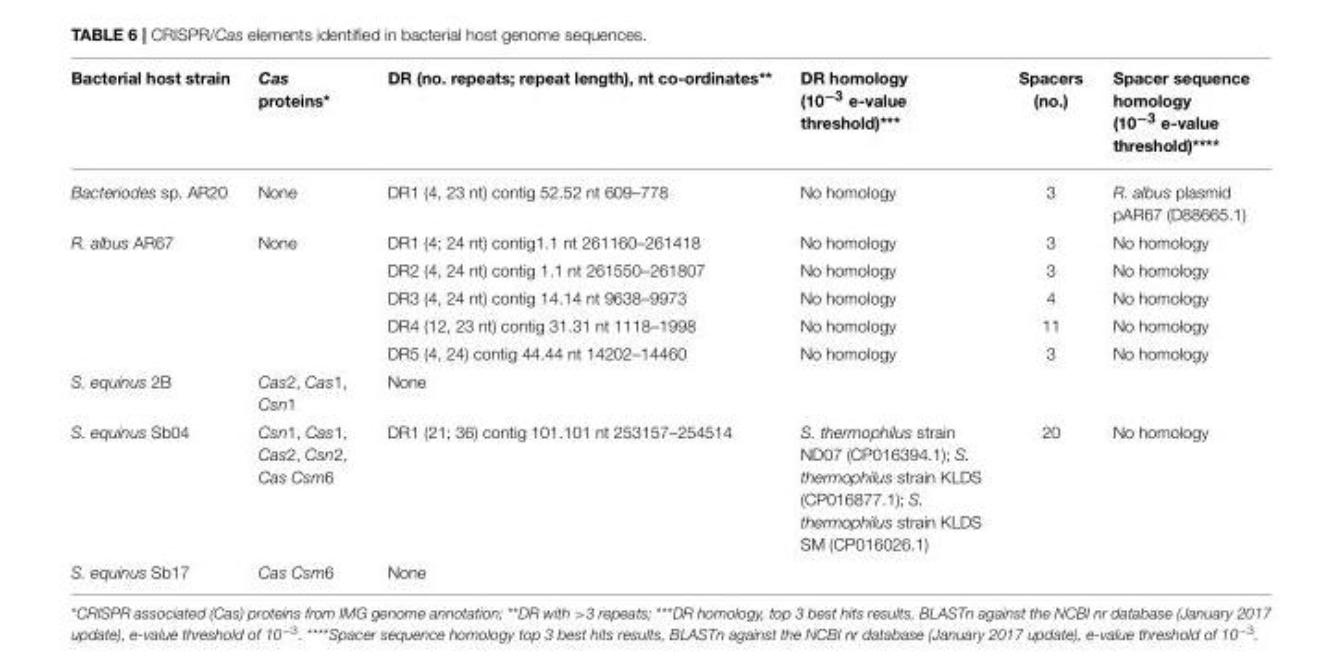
<table><thead><tr><td>Bacterial host strain</td><td>Cas proteins*</td><td>DR (no. repeats; repeat length), nt co-ordinates**</td><td>DR homology (10<sup>−3</sup> e-value threshold)***</td><td>Spacers (no.)</td><td>Spacer sequence homology (10<sup>−3</sup> e-value threshold)****</td></tr></thead><tbody><tr><td>Bacteriodes sp. AR20</td><td>None</td><td>DR1 (4, 23 nt) contig 52.52 nt 609–778</td><td>No homology</td><td>3</td><td>R. albus plasmid pAR67 (D88665.1)</td></tr><tr><td rowspan="5">R. albus AR67</td><td>None</td><td>DR1 (4; 24 nt) contig1.1 nt 261160–261418</td><td>No homology</td><td>3</td><td>No homology</td></tr><tr><td></td><td>DR2 (4, 24 nt) contig 1.1 nt 261550–261807</td><td>No homology</td><td>3</td><td>No homology</td></tr><tr><td></td><td>DR3 (4, 24 nt) contig 14.14 nt 9638–9973</td><td>No homology</td><td>4</td><td>No homology</td></tr><tr><td></td><td>DR4 (12, 23 nt) contig 31.31 nt 1118–1998</td><td>No homology</td><td>11</td><td>No homology</td></tr><tr><td></td><td>DR5 (4, 24) contig 44.44 nt 14202–14460</td><td>No homology</td><td>3</td><td>No homology</td></tr><tr><td>S. equinus 2B</td><td>Cas2, Cas1, Csn1</td><td>None</td><td></td><td></td><td></td></tr><tr><td>S. equinus Sb04</td><td>Csn1, Cas1, Cas2, Csn2, Cas Csm6</td><td>DR1 (21; 36) contig 101.101 nt 253157–254514</td><td>S. thermophilus strain ND07 (CP016394.1); S. thermophilus strain KLDS (CP016877.1); S. thermophilus strain KLDS SM (CP016026.1)</td><td>20</td><td>No homology</td></tr><tr><td>S. equinus Sb17</td><td>Cas Csm6</td><td>None</td><td></td><td></td><td></td></tr></tbody></table>